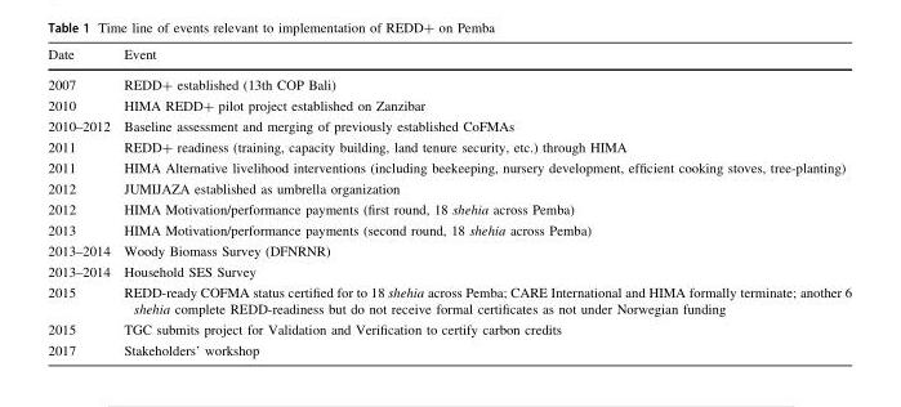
<table><thead><tr><td>Date</td><td>Event</td></tr></thead><tbody><tr><td>2007</td><td>REDD+ established (13th COP Bali)</td></tr><tr><td>2010</td><td>HIMA REDD+ pilot project established on Zanzibar</td></tr><tr><td>2010–2012</td><td>Baseline assessment and merging of previously established CoFMAs</td></tr><tr><td>2011</td><td>REDD+ readiness (training, capacity building, land tenure security, etc.) through HIMA</td></tr><tr><td>2011</td><td>HIMA Alternative livelihood interventions (including beekeeping, nursery development, efficient cooking stoves, tree-planting)</td></tr><tr><td>2012</td><td>JUMIJAZA established as umbrella organization</td></tr><tr><td>2012</td><td>HIMA Motivation/performance payments (first round, 18 shehia across Pemba)</td></tr><tr><td>2013</td><td>HIMA Motivation/performance payments (second round, 18 shehia across Pemba)</td></tr><tr><td>2013–2014</td><td>Woody Biomass Survey (DFNRNR)</td></tr><tr><td>2013–2014</td><td>Household SES Survey</td></tr><tr><td>2015</td><td>REDD-ready COFMA status certified for to 18 shehia across Pemba; CARE International and HIMA formally terminate; another 6 shehia complete REDD-readiness but do not receive formal certificates as not under Norwegian funding</td></tr><tr><td>2015</td><td>TGC submits project for Validation and Verification to certify carbon credits</td></tr><tr><td>2017</td><td>Stakeholders’ workshop</td></tr></tbody></table>